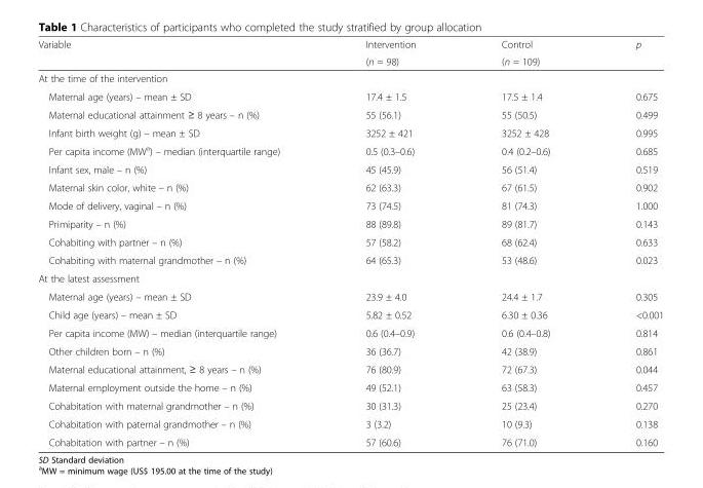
<table><thead><tr><td rowspan="2">Variable</td><td rowspan="2">Intervention (n = 98)</td><td rowspan="2">Control (n = 109)</td><td rowspan="2">p</td></tr><tr></tr></thead><tbody><tr><td colspan="4">At the time of the intervention</td></tr><tr><td>Maternal age (years) – mean ± SD</td><td>17.4 ± 1.5</td><td>17.5 ± 1.4</td><td>0.675</td></tr><tr><td>Maternal educational attainment ≥ 8 years – n (%)</td><td>55 (56.1)</td><td>55 (50.5)</td><td>0.499</td></tr><tr><td>Infant birth weight (g) – mean ± SD</td><td>3252 ± 421</td><td>3252 ± 428</td><td>0.995</td></tr><tr><td>Per capita income (MW<sup>a</sup>) – median (interquartile range)</td><td>0.5 (0.3–0.6)</td><td>0.4 (0.2–0.6)</td><td>0.685</td></tr><tr><td>Infant sex, male – n (%)</td><td>45 (45.9)</td><td>56 (51.4)</td><td>0.519</td></tr><tr><td>Maternal skin color, white – n (%)</td><td>62 (63.3)</td><td>67 (61.5)</td><td>0.902</td></tr><tr><td>Mode of delivery, vaginal – n (%)</td><td>73 (74.5)</td><td>81 (74.3)</td><td>1.000</td></tr><tr><td>Primiparity – n (%)</td><td>88 (89.8)</td><td>89 (81.7)</td><td>0.143</td></tr><tr><td>Cohabiting with partner – n (%)</td><td>57 (58.2)</td><td>68 (62.4)</td><td>0.633</td></tr><tr><td>Cohabiting with maternal grandmother – n (%)</td><td>64 (65.3)</td><td>53 (48.6)</td><td>0.023</td></tr><tr><td colspan="4">At the latest assessment</td></tr><tr><td>Maternal age (years) – mean ± SD</td><td>23.9 ± 4.0</td><td>24.4 ± 1.7</td><td>0.305</td></tr><tr><td>Child age (years) – mean ± SD</td><td>5.82 ± 0.52</td><td>6.30 ± 0.36</td><td>&lt;0.001</td></tr><tr><td>Per capita income (MW) – median (interquartile range)</td><td>0.6 (0.4–0.9)</td><td>0.6 (0.4–0.8)</td><td>0.814</td></tr><tr><td>Other children born – n (%)</td><td>36 (36.7)</td><td>42 (38.9)</td><td>0.861</td></tr><tr><td>Maternal educational attainment, ≥ 8 years – n (%)</td><td>76 (80.9)</td><td>72 (67.3)</td><td>0.044</td></tr><tr><td>Maternal employment outside the home – n (%)</td><td>49 (52.1)</td><td>63 (58.3)</td><td>0.457</td></tr><tr><td>Cohabitation with maternal grandmother – n (%)</td><td>30 (31.3)</td><td>25 (23.4)</td><td>0.270</td></tr><tr><td>Cohabitation with paternal grandmother – n (%)</td><td>3 (3.2)</td><td>10 (9.3)</td><td>0.138</td></tr><tr><td>Cohabitation with partner – n (%)</td><td>57 (60.6)</td><td>76 (71.0)</td><td>0.160</td></tr></tbody></table>